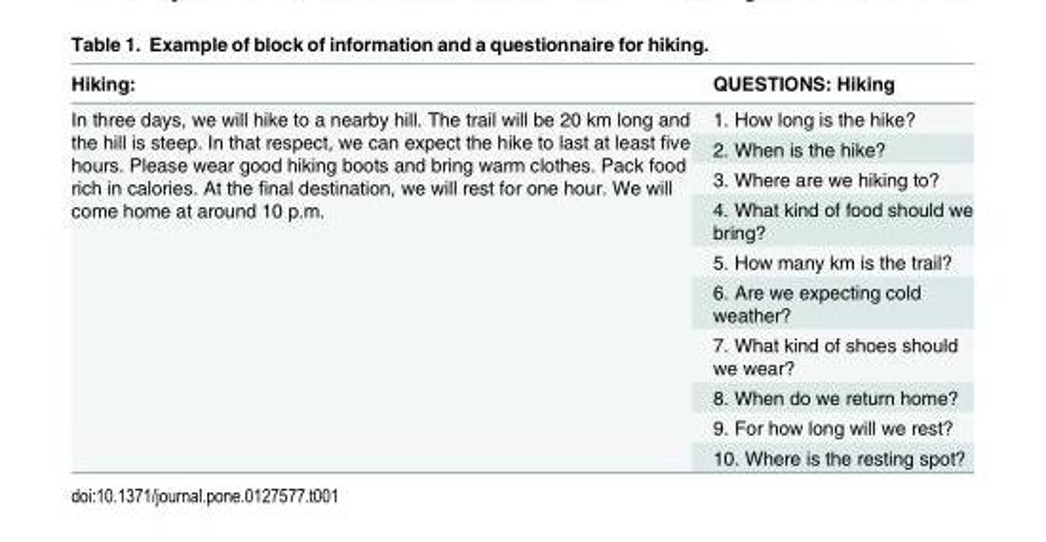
<table><thead><tr><td>Hiking:</td><td>QUESTIONS: Hiking</td></tr></thead><tbody><tr><td rowspan="10">In three days, we will hike to a nearby hill. The trail will be 20 km long and the hill is steep. In that respect, we can expect the hike to last at least five hours. Please wear good hiking boots and bring warm clothes. Pack food rich in calories. At the final destination, we will rest for one hour. We will come home at around 10 p.m.</td><td>1. How long is the hike?</td></tr><tr><td>2. When is the hike?</td></tr><tr><td>3. Where are we hiking to?</td></tr><tr><td>4. What kind of food should we bring?</td></tr><tr><td>5. How many km is the trail?</td></tr><tr><td>6. Are we expecting cold weather?</td></tr><tr><td>7. What kind of shoes should we wear?</td></tr><tr><td>8. When do we return home?</td></tr><tr><td>9. For how long will we rest?</td></tr><tr><td>10. Where is the resting spot?</td></tr></tbody></table>